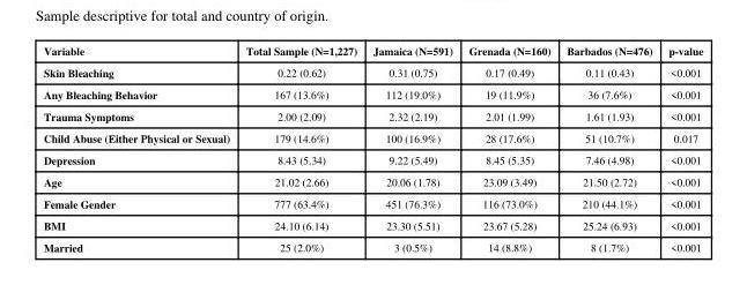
<table><thead><tr><td>Variable</td><td>Total Sample (N=1,227)</td><td>Jamaica (N=591)</td><td>Grenada (N=160)</td><td>Barbados (N=476)</td><td>p-value</td></tr></thead><tbody><tr><td>Skin Bleaching</td><td>0.22 (0.62)</td><td>0.31 (0.75)</td><td>0.17 (0.49)</td><td>0.11 (0.43)</td><td>&lt;0.001</td></tr><tr><td>Any Bleaching Behavior</td><td>167 (13.6%)</td><td>112 (19.0%)</td><td>19 (11.9%)</td><td>36 (7.6%)</td><td>&lt;0.001</td></tr><tr><td>Trauma Symptoms</td><td>2.00 (2.09)</td><td>2.32 (2.19)</td><td>2.01 (1.99)</td><td>1.61 (1.93)</td><td>&lt;0.001</td></tr><tr><td>Child Abuse (Either Physical or Sexual)</td><td>179 (14.6%)</td><td>100 (16.9%)</td><td>28 (17.6%)</td><td>51 (10.7%)</td><td>0.017</td></tr><tr><td>Depression</td><td>8.43 (5.34)</td><td>9.22 (5.49)</td><td>8.45 (5.35)</td><td>7.46 (4.98)</td><td>&lt;0.001</td></tr><tr><td>Age</td><td>21.02 (2.66)</td><td>20.06 (1.78)</td><td>23.09 (3.49)</td><td>21.50 (2.72)</td><td>&lt;0.001</td></tr><tr><td>Female Gender</td><td>777 (63.4%)</td><td>451 (76.3%)</td><td>116 (73.0%)</td><td>210 (44.1%)</td><td>&lt;0.001</td></tr><tr><td>BMI</td><td>24.10 (6.14)</td><td>23.30 (5.51)</td><td>23.67 (5.28)</td><td>25.24 (6.93)</td><td>&lt;0.001</td></tr><tr><td>Married</td><td>25 (2.0%)</td><td>3 (0.5%)</td><td>14 (8.8%)</td><td>8 (1.7%)</td><td>&lt;0.001</td></tr></tbody></table>